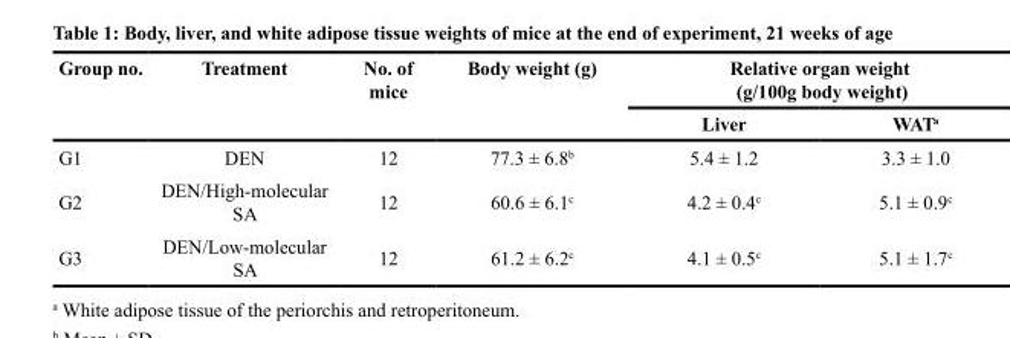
<table><thead><tr><td rowspan="2">Group no.</td><td rowspan="2">Treatment</td><td rowspan="2">No. of mice</td><td rowspan="2">Body weight (g)</td><td colspan="2">Relative organ weight (g/100g body weight)</td></tr><tr><td>Liver</td><td>WAT <sup>a</sup></td></tr></thead><tbody><tr><td>G1</td><td>DEN</td><td>12</td><td>77.3 ± 6.8 <sup>b</sup></td><td>5.4 ± 1.2</td><td>3.3 ± 1.0</td></tr><tr><td>G2</td><td>DEN/High-molecular SA</td><td>12</td><td>60.6 ± 6.1 <sup>c</sup></td><td>4.2 ± 0.4 <sup>c</sup></td><td>5.1 ± 0.9 <sup>c</sup></td></tr><tr><td>G3</td><td>DEN/Low-molecular SA</td><td>12</td><td>61.2 ± 6.2 <sup>c</sup></td><td>4.1 ± 0.5 <sup>c</sup></td><td>5.1 ± 1.7 <sup>c</sup></td></tr></tbody></table>